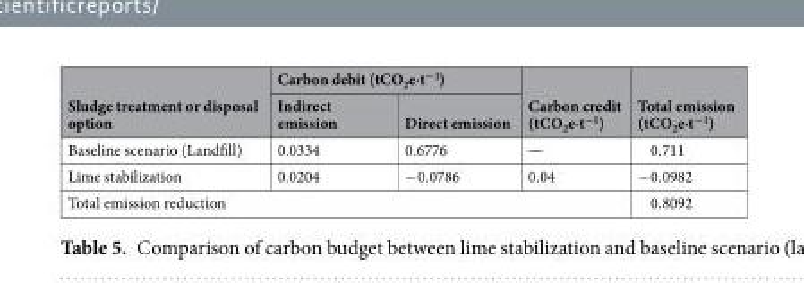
<table><thead><tr><td rowspan="2">Sludge treatment or disposal option</td><td colspan="2">Carbon debit (tCO<sub>2</sub>e∙t<sup>−1</sup>)</td><td rowspan="2">Carbon credit (tCO<sub>2</sub>e∙t<sup>−1</sup>)</td><td rowspan="2">Total emission (tCO<sub>2</sub>e∙t<sup>−1</sup>)</td></tr><tr><td>Indirect emission</td><td>Direct emission</td></tr></thead><tbody><tr><td>Baseline scenario (Landfill)</td><td>0.0334</td><td>0.6776</td><td>—</td><td>0.711</td></tr><tr><td>Lime stabilization</td><td>0.0204</td><td>−0.0786</td><td>0.04</td><td>−0.0982</td></tr><tr><td colspan="4">Total emission reduction</td><td>0.8092</td></tr></tbody></table>